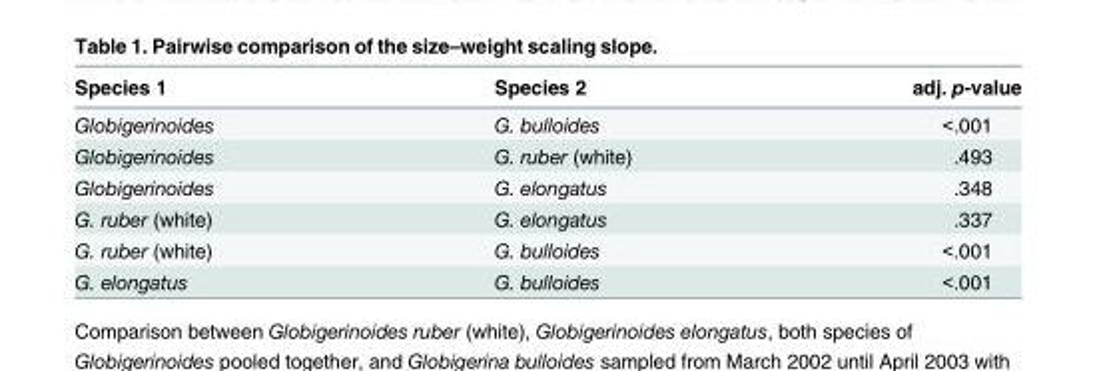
<table><thead><tr><td>Species 1</td><td>Species 2</td><td>adj. p-value</td></tr></thead><tbody><tr><td>Globigerinoides</td><td>G. bulloides</td><td>&lt;.001</td></tr><tr><td>Globigerinoides</td><td>G. ruber (white)</td><td>.493</td></tr><tr><td>Globigerinoides</td><td>G. elongatus</td><td>.348</td></tr><tr><td>G. ruber (white)</td><td>G. elongatus</td><td>.337</td></tr><tr><td>G. ruber (white)</td><td>G. bulloides</td><td>&lt;.001</td></tr><tr><td>G. elongatus</td><td>G. bulloides</td><td>&lt;.001</td></tr></tbody></table>